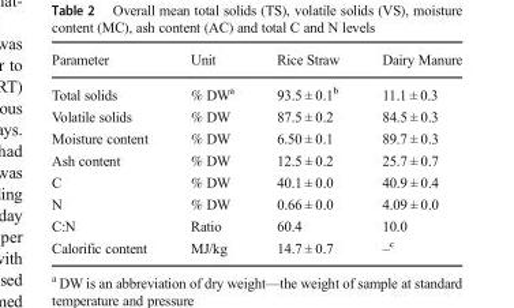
<table><thead><tr><td>Parameter</td><td>Unit</td><td>Rice Straw</td><td>Dairy Manure</td></tr></thead><tbody><tr><td>Total solids</td><td>% DW<sup>a</sup></td><td>93.5 ± 0.1<sup>b</sup></td><td>11.1 ± 0.3</td></tr><tr><td>Volatile solids</td><td>% DW</td><td>87.5 ± 0.2</td><td>84.5 ± 0.3</td></tr><tr><td>Moisture content</td><td>% DW</td><td>6.50 ± 0.1</td><td>89.7 ± 0.3</td></tr><tr><td>Ash content</td><td>% DW</td><td>12.5 ± 0.2</td><td>25.7 ± 0.7</td></tr><tr><td>C</td><td>% DW</td><td>40.1 ± 0.0</td><td>40.9 ± 0.4</td></tr><tr><td>N</td><td>% DW</td><td>0.66 ± 0.0</td><td>4.09 ± 0.0</td></tr><tr><td>C:N</td><td>Ratio</td><td>60.4</td><td>10.0</td></tr><tr><td>Calorific content</td><td>MJ/kg</td><td>14.7 ± 0.7</td><td>–<sup>c</sup></td></tr></tbody></table>